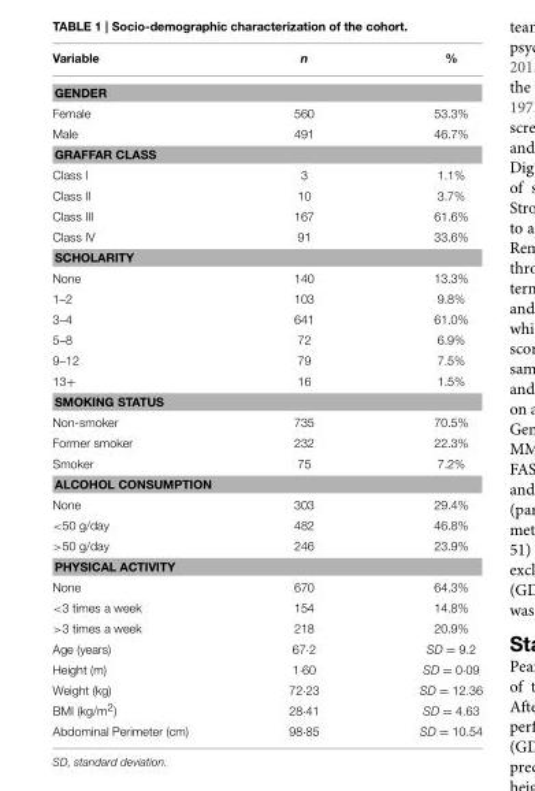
<table><thead><tr><td>Variable</td><td>n</td><td>%</td></tr></thead><tbody><tr><td colspan="3">GENDER</td></tr><tr><td>Female</td><td>560</td><td>53.3%</td></tr><tr><td>Male</td><td>491</td><td>46.7%</td></tr><tr><td colspan="3">GRAFFAR CLASS</td></tr><tr><td>Class I</td><td>3</td><td>1.1%</td></tr><tr><td>Class II</td><td>10</td><td>3.7%</td></tr><tr><td>Class III</td><td>167</td><td>61.6%</td></tr><tr><td>Class IV</td><td>91</td><td>33.6%</td></tr><tr><td colspan="3">SCHOLARITY</td></tr><tr><td>None</td><td>140</td><td>13.3%</td></tr><tr><td>1–2</td><td>103</td><td>9.8%</td></tr><tr><td>3–4</td><td>641</td><td>61.0%</td></tr><tr><td>5–8</td><td>72</td><td>6.9%</td></tr><tr><td>9–12</td><td>79</td><td>7.5%</td></tr><tr><td>13+</td><td>16</td><td>1.5%</td></tr><tr><td colspan="3">SMOKING STATUS</td></tr><tr><td>Non-smoker</td><td>735</td><td>70.5%</td></tr><tr><td>Former smoker</td><td>232</td><td>22.3%</td></tr><tr><td>Smoker</td><td>75</td><td>7.2%</td></tr><tr><td colspan="3">ALCOHOL CONSUMPTION</td></tr><tr><td>None</td><td>303</td><td>29.4%</td></tr><tr><td>&lt;50 g/day</td><td>482</td><td>46.8%</td></tr><tr><td>&gt;50 g/day</td><td>246</td><td>23.9%</td></tr><tr><td colspan="3">PHYSICAL ACTIVITY</td></tr><tr><td>None</td><td>670</td><td>64.3%</td></tr><tr><td>&lt;3 times a week</td><td>154</td><td>14.8%</td></tr><tr><td>&gt;3 times a week</td><td>218</td><td>20.9%</td></tr><tr><td>Age (years)</td><td>67·2</td><td>SD = 9.2</td></tr><tr><td>Height (m)</td><td>1·60</td><td>SD = 0·09</td></tr><tr><td>Weight (kg)</td><td>72·23</td><td>SD = 12.36</td></tr><tr><td>BMI (kg/m<sup>2</sup>)</td><td>28·41</td><td>SD = 4.63</td></tr><tr><td>Abdominal Perimeter (cm)</td><td>98·85</td><td>SD = 10.54</td></tr></tbody></table>